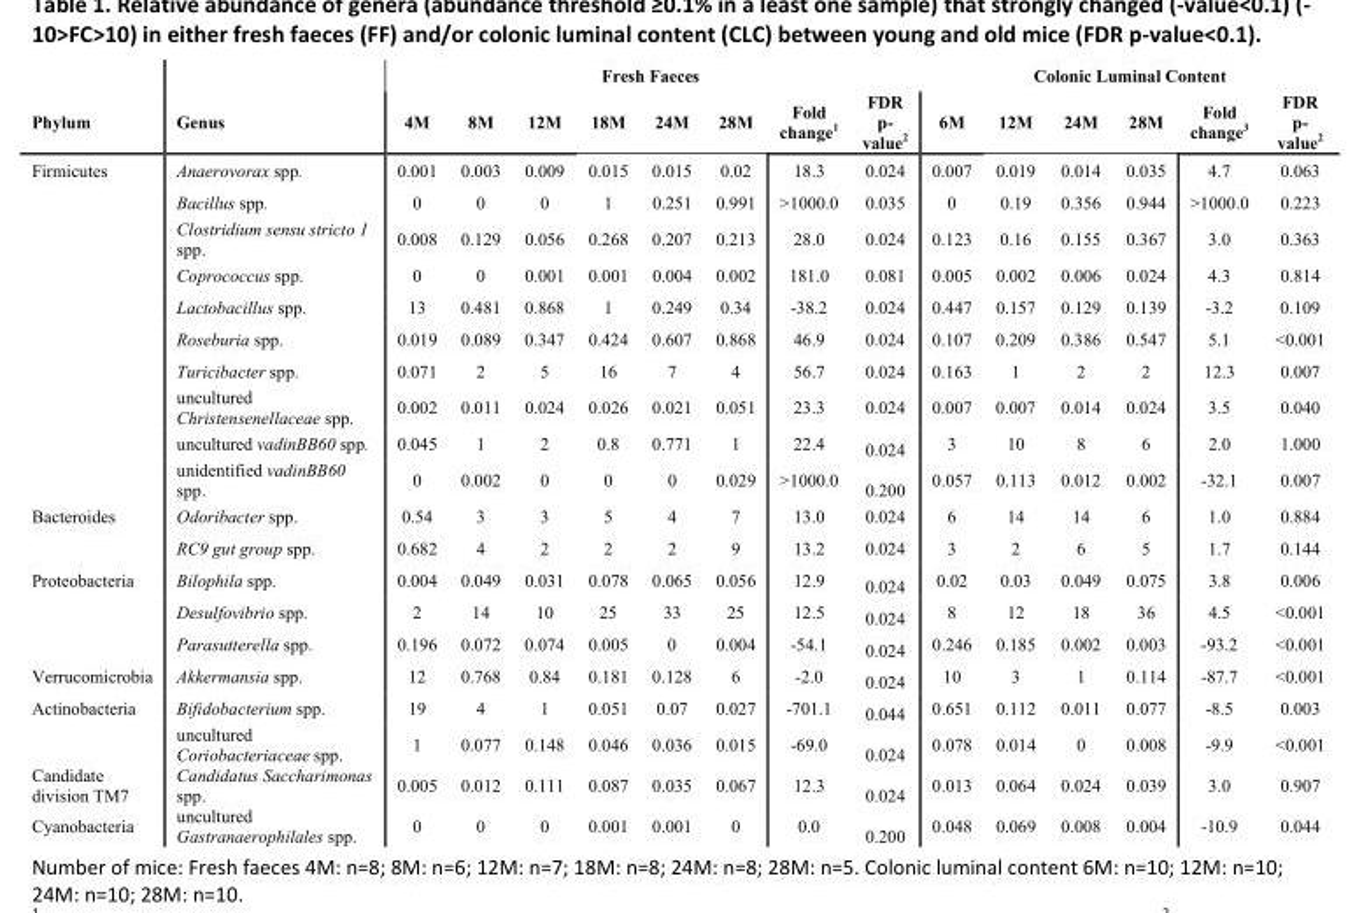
<table><thead><tr><td rowspan="2">Phylum</td><td rowspan="2">Genus</td><td colspan="8">Fresh Faeces</td><td colspan="6">Colonic Luminal Content</td></tr><tr><td>4M</td><td>8M</td><td>12M</td><td>18M</td><td>24M</td><td>28M</td><td>Fold change<sup>1</sup></td><td>FDR p- value<sup>2</sup></td><td>6M</td><td>12M</td><td>24M</td><td>28M</td><td>Fold change<sup>3</sup></td><td>FDR p- value<sup>2</sup></td></tr></thead><tbody><tr><td rowspan="10">Firmicutes</td><td>Anaerovorax spp.</td><td>0.001</td><td>0.003</td><td>0.009</td><td>0.015</td><td>0.015</td><td>0.02</td><td>18.3</td><td>0.024</td><td>0.007</td><td>0.019</td><td>0.014</td><td>0.035</td><td>4.7</td><td>0.063</td></tr><tr><td>Bacillus spp.</td><td>0</td><td>0</td><td>0</td><td>1</td><td>0.251</td><td>0.991</td><td>&gt;1000.0</td><td>0.035</td><td>0</td><td>0.19</td><td>0.356</td><td>0.944</td><td>&gt;1000.0</td><td>0.223</td></tr><tr><td>Clostridium sensu stricto 1 spp.</td><td>0.008</td><td>0.129</td><td>0.056</td><td>0.268</td><td>0.207</td><td>0.213</td><td>28.0</td><td>0.024</td><td>0.123</td><td>0.16</td><td>0.155</td><td>0.367</td><td>3.0</td><td>0.363</td></tr><tr><td>Coprococcus spp.</td><td>0</td><td>0</td><td>0.001</td><td>0.001</td><td>0.004</td><td>0.002</td><td>181.0</td><td>0.081</td><td>0.005</td><td>0.002</td><td>0.006</td><td>0.024</td><td>4.3</td><td>0.814</td></tr><tr><td>Lactobacillus spp.</td><td>13</td><td>0.481</td><td>0.868</td><td>1</td><td>0.249</td><td>0.34</td><td>-38.2</td><td>0.024</td><td>0.447</td><td>0.157</td><td>0.129</td><td>0.139</td><td>-3.2</td><td>0.109</td></tr><tr><td>Roseburia spp.</td><td>0.019</td><td>0.089</td><td>0.347</td><td>0.424</td><td>0.607</td><td>0.868</td><td>46.9</td><td>0.024</td><td>0.107</td><td>0.209</td><td>0.386</td><td>0.547</td><td>5.1</td><td>&lt;0.001</td></tr><tr><td>Turicibacter spp.</td><td>0.071</td><td>2</td><td>5</td><td>16</td><td>7</td><td>4</td><td>56.7</td><td>0.024</td><td>0.163</td><td>1</td><td>2</td><td>2</td><td>12.3</td><td>0.007</td></tr><tr><td>uncultured Christensenellaceae spp.</td><td>0.002</td><td>0.011</td><td>0.024</td><td>0.026</td><td>0.021</td><td>0.051</td><td>23.3</td><td>0.024</td><td>0.007</td><td>0.007</td><td>0.014</td><td>0.024</td><td>3.5</td><td>0.040</td></tr><tr><td>uncultured vadinBB60 spp.</td><td>0.045</td><td>1</td><td>2</td><td>0.8</td><td>0.771</td><td>1</td><td>22.4</td><td>0.024</td><td>3</td><td>10</td><td>8</td><td>6</td><td>2.0</td><td>1.000</td></tr><tr><td>unidentified vadinBB60 spp.</td><td>0</td><td>0.002</td><td>0</td><td>0</td><td>0</td><td>0.029</td><td>&gt;1000.0</td><td>0.200</td><td>0.057</td><td>0.113</td><td>0.012</td><td>0.002</td><td>-32.1</td><td>0.007</td></tr><tr><td rowspan="2">Bacteroides</td><td>Odoribacter spp.</td><td>0.54</td><td>3</td><td>3</td><td>5</td><td>4</td><td>7</td><td>13.0</td><td>0.024</td><td>6</td><td>14</td><td>14</td><td>6</td><td>1.0</td><td>0.884</td></tr><tr><td>RC9 gut group spp.</td><td>0.682</td><td>4</td><td>2</td><td>2</td><td>2</td><td>9</td><td>13.2</td><td>0.024</td><td>3</td><td>2</td><td>6</td><td>5</td><td>1.7</td><td>0.144</td></tr><tr><td rowspan="3">Proteobacteria</td><td>Bilophila spp.</td><td>0.004</td><td>0.049</td><td>0.031</td><td>0.078</td><td>0.065</td><td>0.056</td><td>12.9</td><td>0.024</td><td>0.02</td><td>0.03</td><td>0.049</td><td>0.075</td><td>3.8</td><td>0.006</td></tr><tr><td>Desulfovibrio spp.</td><td>2</td><td>14</td><td>10</td><td>25</td><td>33</td><td>25</td><td>12.5</td><td>0.024</td><td>8</td><td>12</td><td>18</td><td>36</td><td>4.5</td><td>&lt;0.001</td></tr><tr><td>Parasutterella spp.</td><td>0.196</td><td>0.072</td><td>0.074</td><td>0.005</td><td>0</td><td>0.004</td><td>-54.1</td><td>0.024</td><td>0.246</td><td>0.185</td><td>0.002</td><td>0.003</td><td>-93.2</td><td>&lt;0.001</td></tr><tr><td>Verrucomicrobia</td><td>Akkermansia spp.</td><td>12</td><td>0.768</td><td>0.84</td><td>0.181</td><td>0.128</td><td>6</td><td>-2.0</td><td>0.024</td><td>10</td><td>3</td><td>1</td><td>0.114</td><td>-87.7</td><td>&lt;0.001</td></tr><tr><td rowspan="2">Actinobacteria</td><td>Bifidobacterium spp.</td><td>19</td><td>4</td><td>1</td><td>0.051</td><td>0.07</td><td>0.027</td><td>-701.1</td><td>0.044</td><td>0.651</td><td>0.112</td><td>0.011</td><td>0.077</td><td>-8.5</td><td>0.003</td></tr><tr><td>uncultured Coriobacteriaceae spp.</td><td>1</td><td>0.077</td><td>0.148</td><td>0.046</td><td>0.036</td><td>0.015</td><td>-69.0</td><td>0.024</td><td>0.078</td><td>0.014</td><td>0</td><td>0.008</td><td>-9.9</td><td>&lt;0.001</td></tr><tr><td>Candidate division TM7</td><td>Candidatus Saccharimonas spp.</td><td>0.005</td><td>0.012</td><td>0.111</td><td>0.087</td><td>0.035</td><td>0.067</td><td>12.3</td><td>0.024</td><td>0.013</td><td>0.064</td><td>0.024</td><td>0.039</td><td>3.0</td><td>0.907</td></tr><tr><td>Cyanobacteria</td><td>uncultured Gastranaerophilales spp.</td><td>0</td><td>0</td><td>0</td><td>0.001</td><td>0.001</td><td>0</td><td>0.0</td><td>0.200</td><td>0.048</td><td>0.069</td><td>0.008</td><td>0.004</td><td>-10.9</td><td>0.044</td></tr></tbody></table>